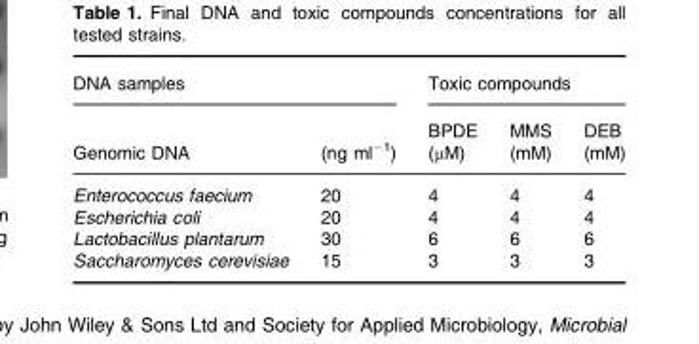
<table><thead><tr><td colspan="2">DNA samples</td><td colspan="3">Toxic compounds</td></tr><tr><td>Genomic DNA</td><td>(ng ml<sup>−1</sup>)</td><td>BPDE (μM)</td><td>MMS (mM)</td><td>DEB (mM)</td></tr></thead><tbody><tr><td>Enterococcus faecium</td><td>20</td><td>4</td><td>4</td><td>4</td></tr><tr><td>Escherichia coli</td><td>20</td><td>4</td><td>4</td><td>4</td></tr><tr><td>Lactobacillus plantarum</td><td>30</td><td>6</td><td>6</td><td>6</td></tr><tr><td>Saccharomyces cerevisiae</td><td>15</td><td>3</td><td>3</td><td>3</td></tr></tbody></table>